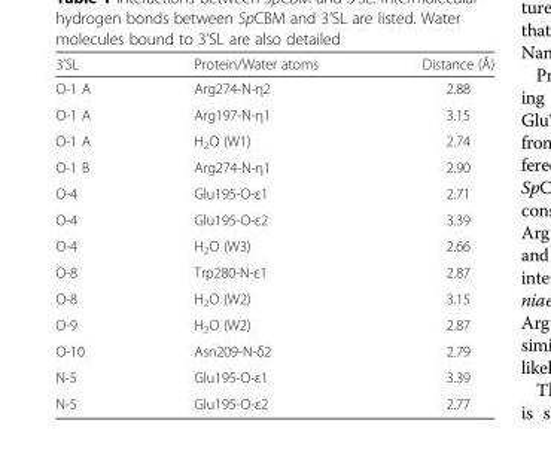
<table><thead><tr><td>3’SL</td><td>Protein/Water atoms</td><td>Distance (Å)</td></tr></thead><tbody><tr><td>O-1 A</td><td>Arg274-N-η2</td><td>2.88</td></tr><tr><td>O-1 A</td><td>Arg197-N-η1</td><td>3.15</td></tr><tr><td>O-1 A</td><td>H<sub>2</sub>O (W1)</td><td>2.74</td></tr><tr><td>O-1 B</td><td>Arg274-N-η1</td><td>2.90</td></tr><tr><td>O-4</td><td>Glu195-O-ε1</td><td>2.71</td></tr><tr><td>O-4</td><td>Glu195-O-ε2</td><td>3.39</td></tr><tr><td>O-4</td><td>H<sub>2</sub>O (W3)</td><td>2.66</td></tr><tr><td>O-8</td><td>Trp280-N-ε1</td><td>2.87</td></tr><tr><td>O-8</td><td>H<sub>2</sub>O (W2)</td><td>3.15</td></tr><tr><td>O-9</td><td>H<sub>2</sub>O (W2)</td><td>2.87</td></tr><tr><td>O-10</td><td>Asn209-N-δ2</td><td>2.79</td></tr><tr><td>N-5</td><td>Glu195-O-ε1</td><td>3.39</td></tr><tr><td>N-5</td><td>Glu195-O-ε2</td><td>2.77</td></tr></tbody></table>